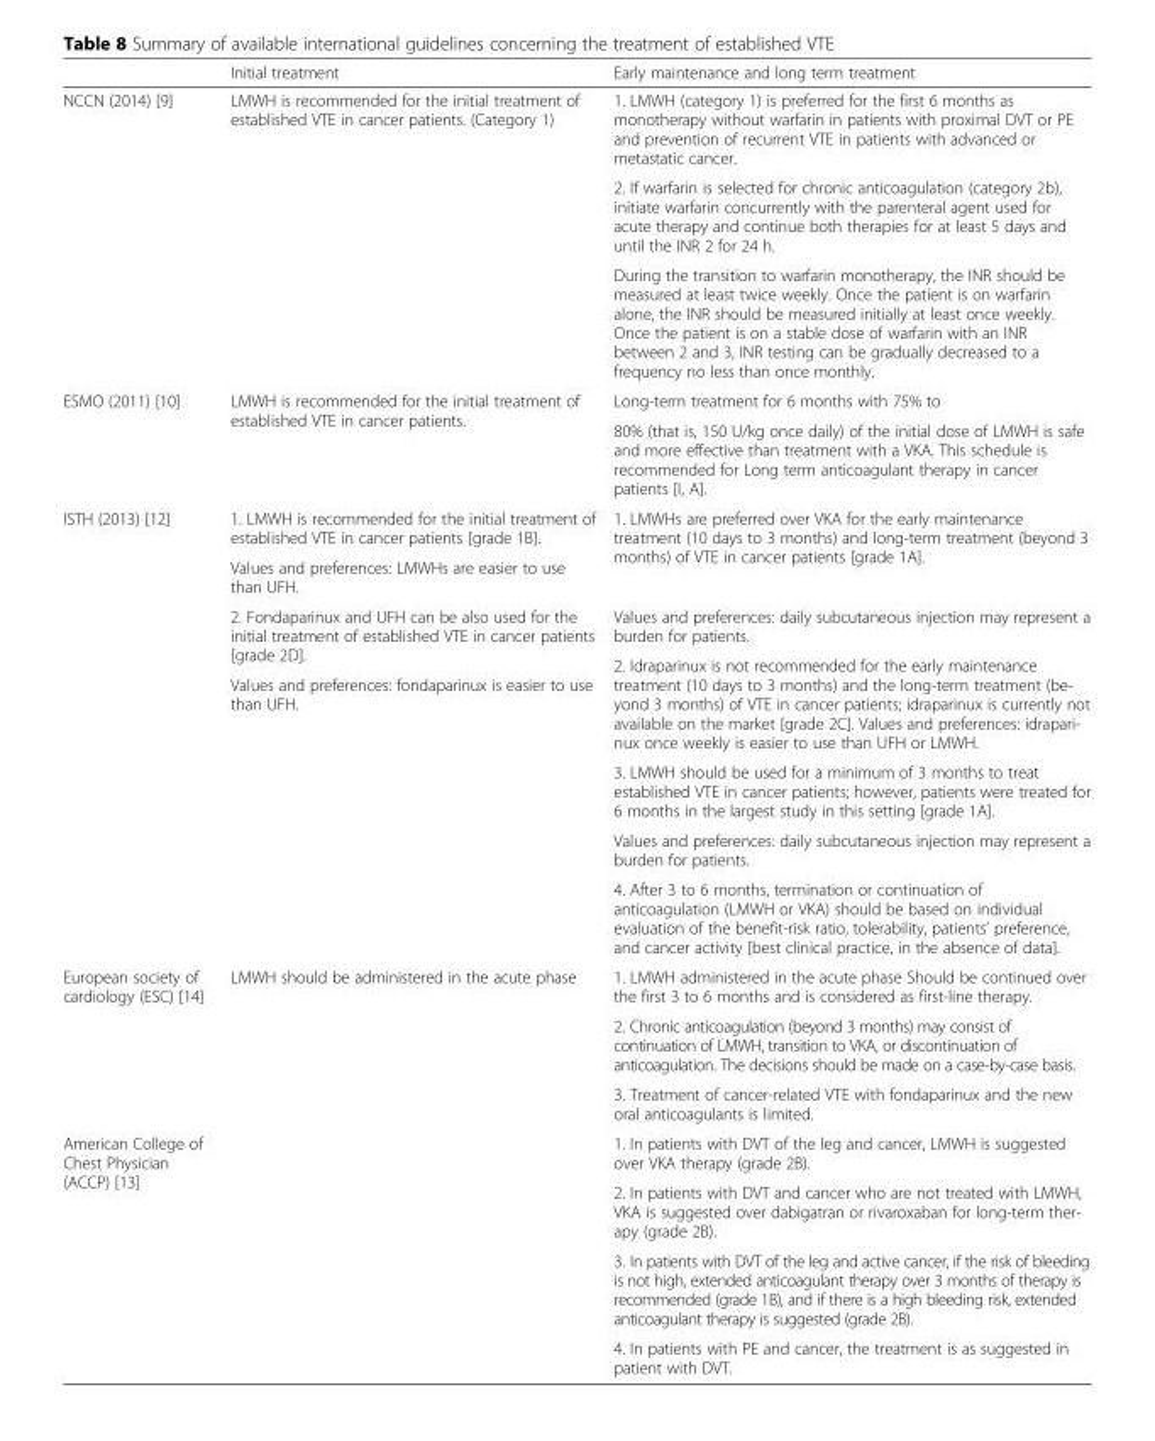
<table><thead><tr><td></td><td>Initial treatment</td><td>Early maintenance and long term treatment</td></tr></thead><tbody><tr><td rowspan="3">NCCN (2014) [9]</td><td rowspan="3">LMWH is recommended for the initial treatment of established VTE in cancer patients. (Category 1)</td><td>1. LMWH (category 1) is preferred for the first 6 months as monotherapy without warfarin in patients with proximal DVT or PE and prevention of recurrent VTE in patients with advanced or metastatic cancer.</td></tr><tr><td>2. If warfarin is selected for chronic anticoagulation (category 2b), initiate warfarin concurrently with the parenteral agent used for acute therapy and continue both therapies for at least 5 days and until the INR 2 for 24 h.</td></tr><tr><td>During the transition to warfarin monotherapy, the INR should be measured at least twice weekly. Once the patient is on warfarin alone, the INR should be measured initially at least once weekly. Once the patient is on a stable dose of warfarin with an INR between 2 and 3, INR testing can be gradually decreased to a frequency no less than once monthly.</td></tr><tr><td rowspan="2">ESMO (2011) [10]</td><td rowspan="2">LMWH is recommended for the initial treatment of established VTE in cancer patients.</td><td>Long-term treatment for 6 months with 75% to</td></tr><tr><td>80% (that is, 150 U/kg once daily) of the initial dose of LMWH is safe and more effective than treatment with a VKA. This schedule is recommended for Long term anticoagulant therapy in cancer patients [I, A].</td></tr><tr><td rowspan="8">ISTH (2013) [12]</td><td>1. LMWH is recommended for the initial treatment of established VTE in cancer patients [grade 1B].</td><td rowspan="2">1. LMWHs are preferred over VKA for the early maintenance treatment (10 days to 3 months) and long-term treatment (beyond 3 months) of VTE in cancer patients [grade 1A].</td></tr><tr><td>Values and preferences: LMWHs are easier to use than UFH.</td></tr><tr><td rowspan="2">2. Fondaparinux and UFH can be also used for the initial treatment of established VTE in cancer patients [grade 2D].</td><td>Values and preferences: daily subcutaneous injection may represent a burden for patients.</td></tr><tr><td rowspan="2">2. Idraparinux is not recommended for the early maintenance treatment (10 days to 3 months) and the long-term treatment (be- yond 3 months) of VTE in cancer patients; idraparinux is currently not available on the market [grade 2C]. Values and preferences: idrapari- nux once weekly is easier to use than UFH or LMWH.</td></tr><tr><td rowspan="4">Values and preferences: fondaparinux is easier to use than UFH.</td></tr><tr><td>3. LMWH should be used for a minimum of 3 months to treat established VTE in cancer patients; however, patients were treated for 6 months in the largest study in this setting [grade 1A].</td></tr><tr><td>Values and preferences: daily subcutaneous injection may represent a burden for patients.</td></tr><tr><td>4. After 3 to 6 months, termination or continuation of anticoagulation (LMWH or VKA) should be based on individual evaluation of the benefit-risk ratio, tolerability, patients’ preference, and cancer activity [best clinical practice, in the absence of data].</td></tr><tr><td rowspan="3">European society of cardiology (ESC) [14]</td><td rowspan="3">LMWH should be administered in the acute phase</td><td>1. LMWH administered in the acute phase Should be continued over the first 3 to 6 months and is considered as first-line therapy.</td></tr><tr><td>2. Chronic anticoagulation (beyond 3 months) may consist of continuation of LMWH, transition to VKA, or discontinuation of anticoagulation. The decisions should be made on a case-by-case basis.</td></tr><tr><td>3. Treatment of cancer-related VTE with fondaparinux and the new oral anticoagulants is limited.</td></tr><tr><td rowspan="4">American College of Chest Physician (ACCP) [13]</td><td rowspan="4"></td><td>1. In patients with DVT of the leg and cancer, LMWH is suggested over VKA therapy (grade 2B).</td></tr><tr><td>2. In patients with DVT and cancer who are not treated with LMWH, VKA is suggested over dabigatran or rivaroxaban for long-term ther- apy (grade 2B).</td></tr><tr><td>3. In patients with DVT of the leg and active cancer, if the risk of bleeding is not high, extended anticoagulant therapy over 3 months of therapy is recommended (grade 1B), and if there is a high bleeding risk, extended anticoagulant therapy is suggested (grade 2B).</td></tr><tr><td>4. In patients with PE and cancer, the treatment is as suggested in patient with DVT.</td></tr></tbody></table>